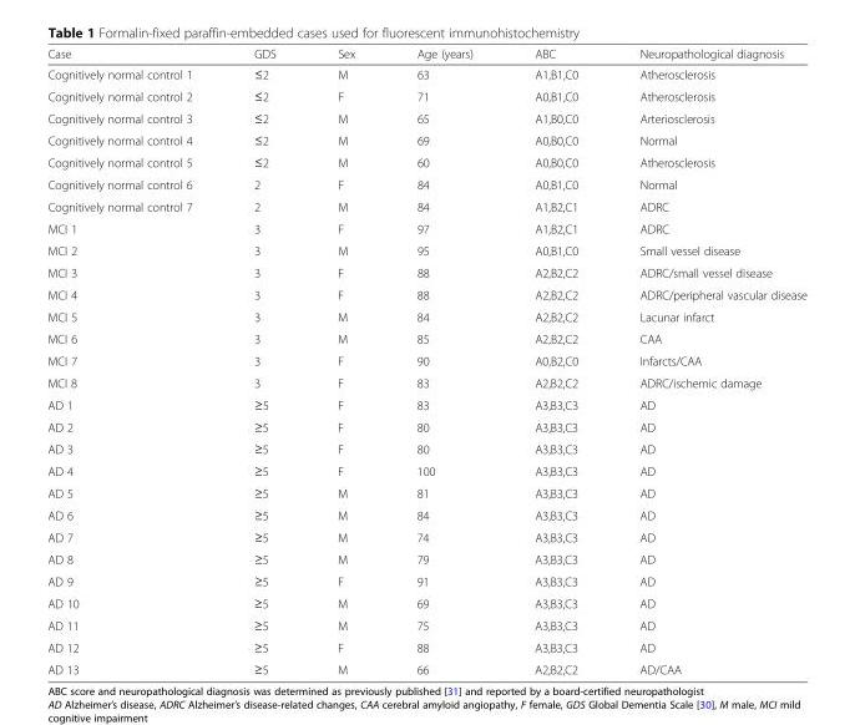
<table><thead><tr><td>Case</td><td>GDS</td><td>Sex</td><td>Age (years)</td><td>ABC</td><td>Neuropathological diagnosis</td></tr></thead><tbody><tr><td>Cognitively normal control 1</td><td>≤2</td><td>M</td><td>63</td><td>A1,B1,C0</td><td>Atherosclerosis</td></tr><tr><td>Cognitively normal control 2</td><td>≤2</td><td>F</td><td>71</td><td>A0,B1,C0</td><td>Atherosclerosis</td></tr><tr><td>Cognitively normal control 3</td><td>≤2</td><td>M</td><td>65</td><td>A1,B0,C0</td><td>Arteriosclerosis</td></tr><tr><td>Cognitively normal control 4</td><td>≤2</td><td>M</td><td>69</td><td>A0,B0,C0</td><td>Normal</td></tr><tr><td>Cognitively normal control 5</td><td>≤2</td><td>M</td><td>60</td><td>A0,B0,C0</td><td>Atherosclerosis</td></tr><tr><td>Cognitively normal control 6</td><td>2</td><td>F</td><td>84</td><td>A0,B1,C0</td><td>Normal</td></tr><tr><td>Cognitively normal control 7</td><td>2</td><td>M</td><td>84</td><td>A1,B2,C1</td><td>ADRC</td></tr><tr><td>MCI 1</td><td>3</td><td>F</td><td>97</td><td>A1,B2,C1</td><td>ADRC</td></tr><tr><td>MCI 2</td><td>3</td><td>M</td><td>95</td><td>A0,B1,C0</td><td>Small vessel disease</td></tr><tr><td>MCI 3</td><td>3</td><td>F</td><td>88</td><td>A2,B2,C2</td><td>ADRC/small vessel disease</td></tr><tr><td>MCI 4</td><td>3</td><td>F</td><td>88</td><td>A2,B2,C2</td><td>ADRC/peripheral vascular disease</td></tr><tr><td>MCI 5</td><td>3</td><td>M</td><td>84</td><td>A2,B2,C2</td><td>Lacunar infarct</td></tr><tr><td>MCI 6</td><td>3</td><td>M</td><td>85</td><td>A2,B2,C2</td><td>CAA</td></tr><tr><td>MCI 7</td><td>3</td><td>F</td><td>90</td><td>A0,B2,C0</td><td>Infarcts/CAA</td></tr><tr><td>MCI 8</td><td>3</td><td>F</td><td>83</td><td>A2,B2,C2</td><td>ADRC/ischemic damage</td></tr><tr><td>AD 1</td><td>≥5</td><td>F</td><td>83</td><td>A3,B3,C3</td><td>AD</td></tr><tr><td>AD 2</td><td>≥5</td><td>F</td><td>80</td><td>A3,B3,C3</td><td>AD</td></tr><tr><td>AD 3</td><td>≥5</td><td>F</td><td>80</td><td>A3,B3,C3</td><td>AD</td></tr><tr><td>AD 4</td><td>≥5</td><td>F</td><td>100</td><td>A3,B3,C3</td><td>AD</td></tr><tr><td>AD 5</td><td>≥5</td><td>M</td><td>81</td><td>A3,B3,C3</td><td>AD</td></tr><tr><td>AD 6</td><td>≥5</td><td>M</td><td>84</td><td>A3,B3,C3</td><td>AD</td></tr><tr><td>AD 7</td><td>≥5</td><td>M</td><td>74</td><td>A3,B3,C3</td><td>AD</td></tr><tr><td>AD 8</td><td>≥5</td><td>M</td><td>79</td><td>A3,B3,C3</td><td>AD</td></tr><tr><td>AD 9</td><td>≥5</td><td>F</td><td>91</td><td>A3,B3,C3</td><td>AD</td></tr><tr><td>AD 10</td><td>≥5</td><td>M</td><td>69</td><td>A3,B3,C3</td><td>AD</td></tr><tr><td>AD 11</td><td>≥5</td><td>M</td><td>75</td><td>A3,B3,C3</td><td>AD</td></tr><tr><td>AD 12</td><td>≥5</td><td>F</td><td>88</td><td>A3,B3,C3</td><td>AD</td></tr><tr><td>AD 13</td><td>≥5</td><td>M</td><td>66</td><td>A2,B2,C2</td><td>AD/CAA</td></tr></tbody></table>